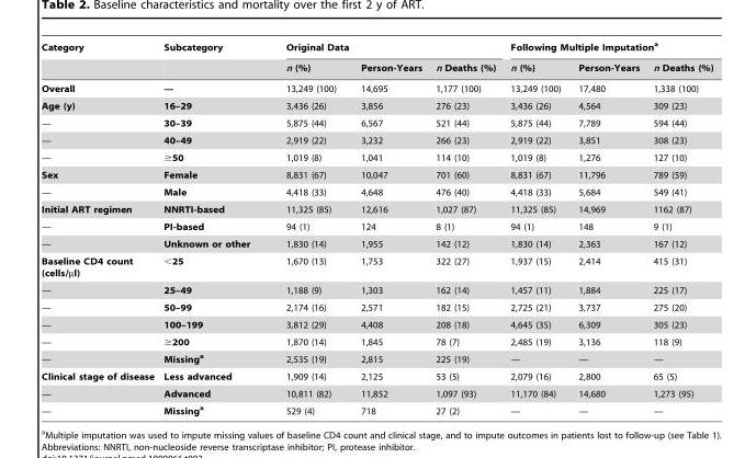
<table><thead><tr><td rowspan="2">Category</td><td rowspan="2">Subcategory</td><td colspan="3">Original Data</td><td colspan="3">Following Multiple Imputation<sup>a</sup></td></tr><tr><td>n (%)</td><td>Person-Years</td><td>n Deaths (%)</td><td>n (%)</td><td>Person-Years</td><td>n Deaths (%)</td></tr></thead><tbody><tr><td>Overall</td><td>—</td><td>13,249 (100)</td><td>14,695</td><td>1,177 (100)</td><td>13,249 (100)</td><td>17,480</td><td>1,338 (100)</td></tr><tr><td>Age (y)</td><td>16–29</td><td>3,436 (26)</td><td>3,856</td><td>276 (23)</td><td>3,436 (26)</td><td>4,564</td><td>309 (23)</td></tr><tr><td>—</td><td>30–39</td><td>5,875 (44)</td><td>6,567</td><td>521 (44)</td><td>5,875 (44)</td><td>7,789</td><td>594 (44)</td></tr><tr><td>—</td><td>40–49</td><td>2,919 (22)</td><td>3,232</td><td>266 (23)</td><td>2,919 (22)</td><td>3,851</td><td>308 (23)</td></tr><tr><td>—</td><td>≥50</td><td>1,019 (8)</td><td>1,041</td><td>114 (10)</td><td>1,019 (8)</td><td>1,276</td><td>127 (10)</td></tr><tr><td>Sex</td><td>Female</td><td>8,831 (67)</td><td>10,047</td><td>701 (60)</td><td>8,831 (67)</td><td>11,796</td><td>789 (59)</td></tr><tr><td>—</td><td>Male</td><td>4,418 (33)</td><td>4,648</td><td>476 (40)</td><td>4,418 (33)</td><td>5,684</td><td>549 (41)</td></tr><tr><td>Initial ART regimen</td><td>NNRTI-based</td><td>11,325 (85)</td><td>12,616</td><td>1,027 (87)</td><td>11,325 (85)</td><td>14,969</td><td>1162 (87)</td></tr><tr><td>—</td><td>PI-based</td><td>94 (1)</td><td>124</td><td>8 (1)</td><td>94 (1)</td><td>148</td><td>9 (1)</td></tr><tr><td>—</td><td>Unknown or other</td><td>1,830 (14)</td><td>1,955</td><td>142 (12)</td><td>1,830 (14)</td><td>2,363</td><td>167 (12)</td></tr><tr><td>Baseline CD4 count (cells/µl)</td><td>&lt;25</td><td>1,670 (13)</td><td>1,753</td><td>322 (27)</td><td>1,937 (15)</td><td>2,414</td><td>415 (31)</td></tr><tr><td>—</td><td>25–49</td><td>1,188 (9)</td><td>1,303</td><td>162 (14)</td><td>1,457 (11)</td><td>1,884</td><td>225 (17)</td></tr><tr><td>—</td><td>50–99</td><td>2,174 (16)</td><td>2,571</td><td>182 (15)</td><td>2,725 (21)</td><td>3,737</td><td>275 (20)</td></tr><tr><td>—</td><td>100–199</td><td>3,812 (29)</td><td>4,408</td><td>208 (18)</td><td>4,645 (35)</td><td>6,309</td><td>305 (23)</td></tr><tr><td>—</td><td>≥200</td><td>1,870 (14)</td><td>1,845</td><td>78 (7)</td><td>2,485 (19)</td><td>3,136</td><td>118 (9)</td></tr><tr><td>—</td><td>Missinga</td><td>2,535 (19)</td><td>2,815</td><td>225 (19)</td><td>—</td><td>—</td><td>—</td></tr><tr><td>Clinical stage of disease</td><td>Less advanced</td><td>1,909 (14)</td><td>2,125</td><td>53 (5)</td><td>2,079 (16)</td><td>2,800</td><td>65 (5)</td></tr><tr><td>—</td><td>Advanced</td><td>10,811 (82)</td><td>11,852</td><td>1,097 (93)</td><td>11,170 (84)</td><td>14,680</td><td>1,273 (95)</td></tr><tr><td>—</td><td>Missinga</td><td>529 (4)</td><td>718</td><td>27 (2)</td><td>—</td><td>—</td><td>—</td></tr></tbody></table>